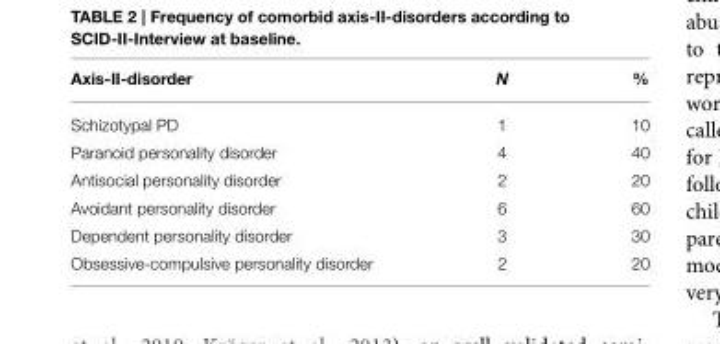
<table><thead><tr><td>Axis-II-disorder</td><td>N</td><td>%</td></tr></thead><tbody><tr><td>Schizotypal PD</td><td>1</td><td>10</td></tr><tr><td>Paranoid personality disorder</td><td>4</td><td>40</td></tr><tr><td>Antisocial personality disorder</td><td>2</td><td>20</td></tr><tr><td>Avoidant personality disorder</td><td>6</td><td>60</td></tr><tr><td>Dependent personality disorder</td><td>3</td><td>30</td></tr><tr><td>Obsessive-compulsive personality disorder</td><td>2</td><td>20</td></tr></tbody></table>